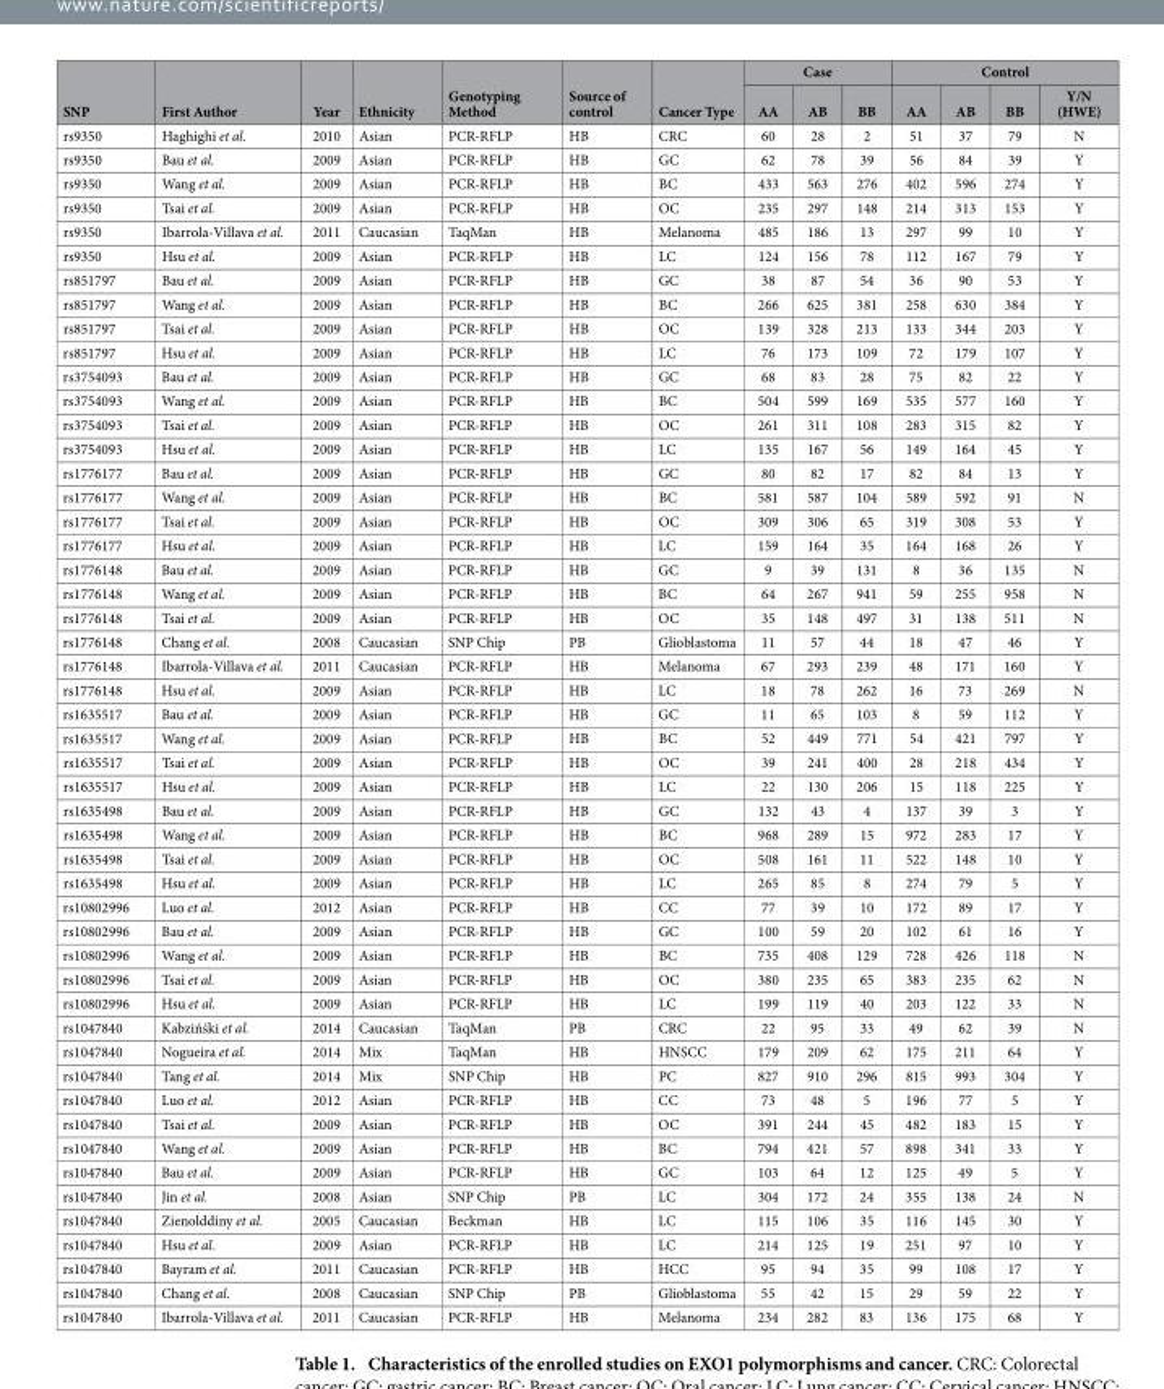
<table><thead><tr><td rowspan="2">SNP</td><td rowspan="2">First Author</td><td rowspan="2">Year</td><td rowspan="2">Ethnicity</td><td rowspan="2">Genotyping Method</td><td rowspan="2">Source of control</td><td rowspan="2">Cancer Type</td><td colspan="3">Case</td><td colspan="4">Control</td></tr><tr><td>AA</td><td>AB</td><td>BB</td><td>AA</td><td>AB</td><td>BB</td><td>Y/N (HWE)</td></tr></thead><tbody><tr><td>rs9350</td><td>Haghighi et al.</td><td>2010</td><td>Asian</td><td>PCR-RFLP</td><td>HB</td><td>CRC</td><td>60</td><td>28</td><td>2</td><td>51</td><td>37</td><td>79</td><td>N</td></tr><tr><td>rs9350</td><td>Bau et al.</td><td>2009</td><td>Asian</td><td>PCR-RFLP</td><td>HB</td><td>GC</td><td>62</td><td>78</td><td>39</td><td>56</td><td>84</td><td>39</td><td>Y</td></tr><tr><td>rs9350</td><td>Wang et al.</td><td>2009</td><td>Asian</td><td>PCR-RFLP</td><td>HB</td><td>BC</td><td>433</td><td>563</td><td>276</td><td>402</td><td>596</td><td>274</td><td>Y</td></tr><tr><td>rs9350</td><td>Tsai et al.</td><td>2009</td><td>Asian</td><td>PCR-RFLP</td><td>HB</td><td>OC</td><td>235</td><td>297</td><td>148</td><td>214</td><td>313</td><td>153</td><td>Y</td></tr><tr><td>rs9350</td><td>Ibarrola-Villava et al.</td><td>2011</td><td>Caucasian</td><td>TaqMan</td><td>HB</td><td>Melanoma</td><td>485</td><td>186</td><td>13</td><td>297</td><td>99</td><td>10</td><td>Y</td></tr><tr><td>rs9350</td><td>Hsu et al.</td><td>2009</td><td>Asian</td><td>PCR-RFLP</td><td>HB</td><td>LC</td><td>124</td><td>156</td><td>78</td><td>112</td><td>167</td><td>79</td><td>Y</td></tr><tr><td>rs851797</td><td>Bau et al.</td><td>2009</td><td>Asian</td><td>PCR-RFLP</td><td>HB</td><td>GC</td><td>38</td><td>87</td><td>54</td><td>36</td><td>90</td><td>53</td><td>Y</td></tr><tr><td>rs851797</td><td>Wang et al.</td><td>2009</td><td>Asian</td><td>PCR-RFLP</td><td>HB</td><td>BC</td><td>266</td><td>625</td><td>381</td><td>258</td><td>630</td><td>384</td><td>Y</td></tr><tr><td>rs851797</td><td>Tsai et al.</td><td>2009</td><td>Asian</td><td>PCR-RFLP</td><td>HB</td><td>OC</td><td>139</td><td>328</td><td>213</td><td>133</td><td>344</td><td>203</td><td>Y</td></tr><tr><td>rs851797</td><td>Hsu et al.</td><td>2009</td><td>Asian</td><td>PCR-RFLP</td><td>HB</td><td>LC</td><td>76</td><td>173</td><td>109</td><td>72</td><td>179</td><td>107</td><td>Y</td></tr><tr><td>rs3754093</td><td>Bau et al.</td><td>2009</td><td>Asian</td><td>PCR-RFLP</td><td>HB</td><td>GC</td><td>68</td><td>83</td><td>28</td><td>75</td><td>82</td><td>22</td><td>Y</td></tr><tr><td>rs3754093</td><td>Wang et al.</td><td>2009</td><td>Asian</td><td>PCR-RFLP</td><td>HB</td><td>BC</td><td>504</td><td>599</td><td>169</td><td>535</td><td>577</td><td>160</td><td>Y</td></tr><tr><td>rs3754093</td><td>Tsai et al.</td><td>2009</td><td>Asian</td><td>PCR-RFLP</td><td>HB</td><td>OC</td><td>261</td><td>311</td><td>108</td><td>283</td><td>315</td><td>82</td><td>Y</td></tr><tr><td>rs3754093</td><td>Hsu et al.</td><td>2009</td><td>Asian</td><td>PCR-RFLP</td><td>HB</td><td>LC</td><td>135</td><td>167</td><td>56</td><td>149</td><td>164</td><td>45</td><td>Y</td></tr><tr><td>rs1776177</td><td>Bau et al.</td><td>2009</td><td>Asian</td><td>PCR-RFLP</td><td>HB</td><td>GC</td><td>80</td><td>82</td><td>17</td><td>82</td><td>84</td><td>13</td><td>Y</td></tr><tr><td>rs1776177</td><td>Wang et al.</td><td>2009</td><td>Asian</td><td>PCR-RFLP</td><td>HB</td><td>BC</td><td>581</td><td>587</td><td>104</td><td>589</td><td>592</td><td>91</td><td>N</td></tr><tr><td>rs1776177</td><td>Tsai et al.</td><td>2009</td><td>Asian</td><td>PCR-RFLP</td><td>HB</td><td>OC</td><td>309</td><td>306</td><td>65</td><td>319</td><td>308</td><td>53</td><td>Y</td></tr><tr><td>rs1776177</td><td>Hsu et al.</td><td>2009</td><td>Asian</td><td>PCR-RFLP</td><td>HB</td><td>LC</td><td>159</td><td>164</td><td>35</td><td>164</td><td>168</td><td>26</td><td>Y</td></tr><tr><td>rs1776148</td><td>Bau et al.</td><td>2009</td><td>Asian</td><td>PCR-RFLP</td><td>HB</td><td>GC</td><td>9</td><td>39</td><td>131</td><td>8</td><td>36</td><td>135</td><td>N</td></tr><tr><td>rs1776148</td><td>Wang et al.</td><td>2009</td><td>Asian</td><td>PCR-RFLP</td><td>HB</td><td>BC</td><td>64</td><td>267</td><td>941</td><td>59</td><td>255</td><td>958</td><td>N</td></tr><tr><td>rs1776148</td><td>Tsai et al.</td><td>2009</td><td>Asian</td><td>PCR-RFLP</td><td>HB</td><td>OC</td><td>35</td><td>148</td><td>497</td><td>31</td><td>138</td><td>511</td><td>N</td></tr><tr><td>rs1776148</td><td>Chang et al.</td><td>2008</td><td>Caucasian</td><td>SNP Chip</td><td>PB</td><td>Glioblastoma</td><td>11</td><td>57</td><td>44</td><td>18</td><td>47</td><td>46</td><td>Y</td></tr><tr><td>rs1776148</td><td>Ibarrola-Villava et al.</td><td>2011</td><td>Caucasian</td><td>PCR-RFLP</td><td>HB</td><td>Melanoma</td><td>67</td><td>293</td><td>239</td><td>48</td><td>171</td><td>160</td><td>Y</td></tr><tr><td>rs1776148</td><td>Hsu et al.</td><td>2009</td><td>Asian</td><td>PCR-RFLP</td><td>HB</td><td>LC</td><td>18</td><td>78</td><td>262</td><td>16</td><td>73</td><td>269</td><td>N</td></tr><tr><td>rs1635517</td><td>Bau et al.</td><td>2009</td><td>Asian</td><td>PCR-RFLP</td><td>HB</td><td>GC</td><td>11</td><td>65</td><td>103</td><td>8</td><td>59</td><td>112</td><td>Y</td></tr><tr><td>rs1635517</td><td>Wang et al.</td><td>2009</td><td>Asian</td><td>PCR-RFLP</td><td>HB</td><td>BC</td><td>52</td><td>449</td><td>771</td><td>54</td><td>421</td><td>797</td><td>Y</td></tr><tr><td>rs1635517</td><td>Tsai et al.</td><td>2009</td><td>Asian</td><td>PCR-RFLP</td><td>HB</td><td>OC</td><td>39</td><td>241</td><td>400</td><td>28</td><td>218</td><td>434</td><td>Y</td></tr><tr><td>rs1635517</td><td>Hsu et al.</td><td>2009</td><td>Asian</td><td>PCR-RFLP</td><td>HB</td><td>LC</td><td>22</td><td>130</td><td>206</td><td>15</td><td>118</td><td>225</td><td>Y</td></tr><tr><td>rs1635498</td><td>Bau et al.</td><td>2009</td><td>Asian</td><td>PCR-RFLP</td><td>HB</td><td>GC</td><td>132</td><td>43</td><td>4</td><td>137</td><td>39</td><td>3</td><td>Y</td></tr><tr><td>rs1635498</td><td>Wang et al.</td><td>2009</td><td>Asian</td><td>PCR-RFLP</td><td>HB</td><td>BC</td><td>968</td><td>289</td><td>15</td><td>972</td><td>283</td><td>17</td><td>Y</td></tr><tr><td>rs1635498</td><td>Tsai et al.</td><td>2009</td><td>Asian</td><td>PCR-RFLP</td><td>HB</td><td>OC</td><td>508</td><td>161</td><td>11</td><td>522</td><td>148</td><td>10</td><td>Y</td></tr><tr><td>rs1635498</td><td>Hsu et al.</td><td>2009</td><td>Asian</td><td>PCR-RFLP</td><td>HB</td><td>LC</td><td>265</td><td>85</td><td>8</td><td>274</td><td>79</td><td>5</td><td>Y</td></tr><tr><td>rs10802996</td><td>Luo et al.</td><td>2012</td><td>Asian</td><td>PCR-RFLP</td><td>HB</td><td>CC</td><td>77</td><td>39</td><td>10</td><td>172</td><td>89</td><td>17</td><td>Y</td></tr><tr><td>rs10802996</td><td>Bau et al.</td><td>2009</td><td>Asian</td><td>PCR-RFLP</td><td>HB</td><td>GC</td><td>100</td><td>59</td><td>20</td><td>102</td><td>61</td><td>16</td><td>Y</td></tr><tr><td>rs10802996</td><td>Wang et al.</td><td>2009</td><td>Asian</td><td>PCR-RFLP</td><td>HB</td><td>BC</td><td>735</td><td>408</td><td>129</td><td>728</td><td>426</td><td>118</td><td>N</td></tr><tr><td>rs10802996</td><td>Tsai et al.</td><td>2009</td><td>Asian</td><td>PCR-RFLP</td><td>HB</td><td>OC</td><td>380</td><td>235</td><td>65</td><td>383</td><td>235</td><td>62</td><td>N</td></tr><tr><td>rs10802996</td><td>Hsu et al.</td><td>2009</td><td>Asian</td><td>PCR-RFLP</td><td>HB</td><td>LC</td><td>199</td><td>119</td><td>40</td><td>203</td><td>122</td><td>33</td><td>N</td></tr><tr><td>rs1047840</td><td>Kabzińśki et al.</td><td>2014</td><td>Caucasian</td><td>TaqMan</td><td>PB</td><td>CRC</td><td>22</td><td>95</td><td>33</td><td>49</td><td>62</td><td>39</td><td>N</td></tr><tr><td>rs1047840</td><td>Nogueira et al.</td><td>2014</td><td>Mix</td><td>TaqMan</td><td>HB</td><td>HNSCC</td><td>179</td><td>209</td><td>62</td><td>175</td><td>211</td><td>64</td><td>Y</td></tr><tr><td>rs1047840</td><td>Tang et al.</td><td>2014</td><td>Mix</td><td>SNP Chip</td><td>HB</td><td>PC</td><td>827</td><td>910</td><td>296</td><td>815</td><td>993</td><td>304</td><td>Y</td></tr><tr><td>rs1047840</td><td>Luo et al.</td><td>2012</td><td>Asian</td><td>PCR-RFLP</td><td>HB</td><td>CC</td><td>73</td><td>48</td><td>5</td><td>196</td><td>77</td><td>5</td><td>Y</td></tr><tr><td>rs1047840</td><td>Tsai et al.</td><td>2009</td><td>Asian</td><td>PCR-RFLP</td><td>HB</td><td>OC</td><td>391</td><td>244</td><td>45</td><td>482</td><td>183</td><td>15</td><td>Y</td></tr><tr><td>rs1047840</td><td>Wang et al.</td><td>2009</td><td>Asian</td><td>PCR-RFLP</td><td>HB</td><td>BC</td><td>794</td><td>421</td><td>57</td><td>898</td><td>341</td><td>33</td><td>Y</td></tr><tr><td>rs1047840</td><td>Bau et al.</td><td>2009</td><td>Asian</td><td>PCR-RFLP</td><td>HB</td><td>GC</td><td>103</td><td>64</td><td>12</td><td>125</td><td>49</td><td>5</td><td>Y</td></tr><tr><td>rs1047840</td><td>Jin et al.</td><td>2008</td><td>Asian</td><td>SNP Chip</td><td>PB</td><td>LC</td><td>304</td><td>172</td><td>24</td><td>355</td><td>138</td><td>24</td><td>N</td></tr><tr><td>rs1047840</td><td>Zienolddiny et al.</td><td>2005</td><td>Caucasian</td><td>Beckman</td><td>HB</td><td>LC</td><td>115</td><td>106</td><td>35</td><td>116</td><td>145</td><td>30</td><td>Y</td></tr><tr><td>rs1047840</td><td>Hsu et al.</td><td>2009</td><td>Asian</td><td>PCR-RFLP</td><td>HB</td><td>LC</td><td>214</td><td>125</td><td>19</td><td>251</td><td>97</td><td>10</td><td>Y</td></tr><tr><td>rs1047840</td><td>Bayram et al.</td><td>2011</td><td>Caucasian</td><td>PCR-RFLP</td><td>HB</td><td>HCC</td><td>95</td><td>94</td><td>35</td><td>99</td><td>108</td><td>17</td><td>Y</td></tr><tr><td>rs1047840</td><td>Chang et al.</td><td>2008</td><td>Caucasian</td><td>SNP Chip</td><td>PB</td><td>Glioblastoma</td><td>55</td><td>42</td><td>15</td><td>29</td><td>59</td><td>22</td><td>Y</td></tr><tr><td>rs1047840</td><td>Ibarrola-Villava et al.</td><td>2011</td><td>Caucasian</td><td>PCR-RFLP</td><td>HB</td><td>Melanoma</td><td>234</td><td>282</td><td>83</td><td>136</td><td>175</td><td>68</td><td>Y</td></tr></tbody></table>